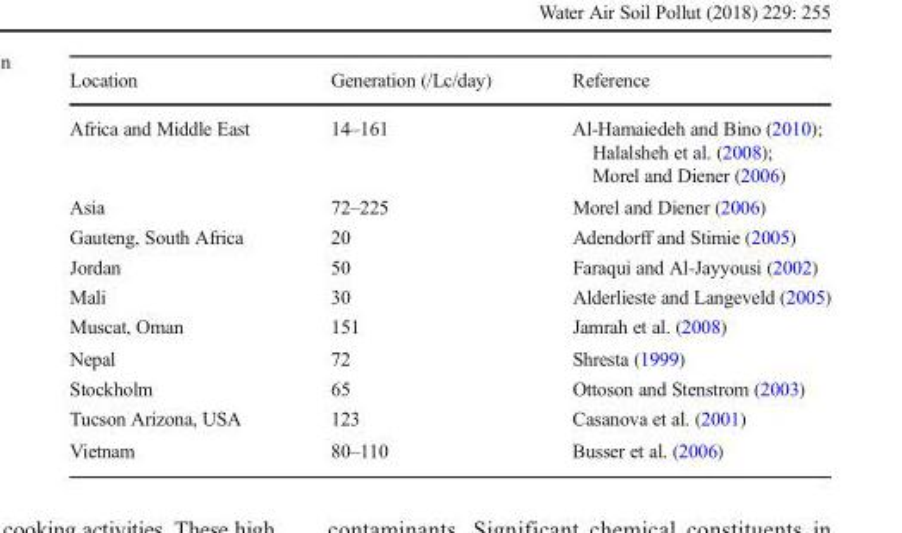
<table><thead><tr><td>Location</td><td>Generation (/Lc/day)</td><td>Reference</td></tr></thead><tbody><tr><td>Africa and Middle East</td><td>14–161</td><td>Al-Hamaiedeh and Bino (2010); Halalsheh et al. (2008); Morel and Diener (2006)</td></tr><tr><td>Asia</td><td>72–225</td><td>Morel and Diener (2006)</td></tr><tr><td>Gauteng, South Africa</td><td>20</td><td>Adendorff and Stimie (2005)</td></tr><tr><td>Jordan</td><td>50</td><td>Faraqui and Al-Jayyousi (2002)</td></tr><tr><td>Mali</td><td>30</td><td>Alderlieste and Langeveld (2005)</td></tr><tr><td>Muscat, Oman</td><td>151</td><td>Jamrah et al. (2008)</td></tr><tr><td>Nepal</td><td>72</td><td>Shresta (1999)</td></tr><tr><td>Stockholm</td><td>65</td><td>Ottoson and Stenstrom (2003)</td></tr><tr><td>Tucson Arizona, USA</td><td>123</td><td>Casanova et al. (2001)</td></tr><tr><td>Vietnam</td><td>80–110</td><td>Busser et al. (2006)</td></tr></tbody></table>